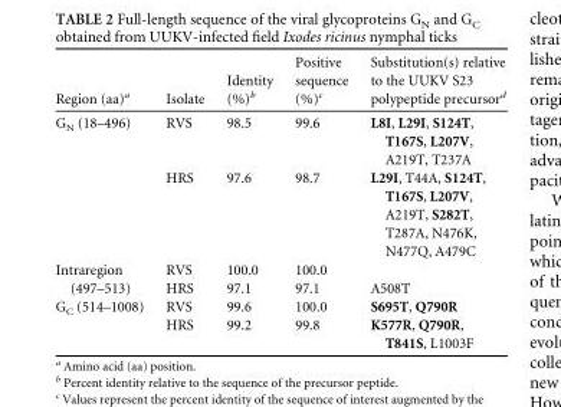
<table><thead><tr><td>Region (aa)<sup>a</sup></td><td>Isolate</td><td>Identity (%)<sup>b</sup></td><td>Positive sequence (%)<sup>c</sup></td><td>Substitution(s) relative to the UUKV S23 polypeptide precursor<sup>d</sup></td></tr></thead><tbody><tr><td rowspan="2">G<sub>N</sub> (18–496)</td><td>RVS</td><td>98.5</td><td>99.6</td><td>L8I, L29I, S124T, T167S, L207V, A219T, T237A</td></tr><tr><td>HRS</td><td>97.6</td><td>98.7</td><td>L29I, T44A, S124T, T167S, L207V, A219T, S282T, T287A, N476K, N477Q, A479C</td></tr><tr><td>Intraregion</td><td>RVS</td><td>100.0</td><td>100.0</td><td></td></tr><tr><td>(497–513)</td><td>HRS</td><td>97.1</td><td>97.1</td><td>A508T</td></tr><tr><td rowspan="2">G<sub>C</sub> (514–1008)</td><td>RVS</td><td>99.6</td><td>100.0</td><td>S695T, Q790R</td></tr><tr><td>HRS</td><td>99.2</td><td>99.8</td><td>K577R, Q790R, T841S, L1003F</td></tr></tbody></table>